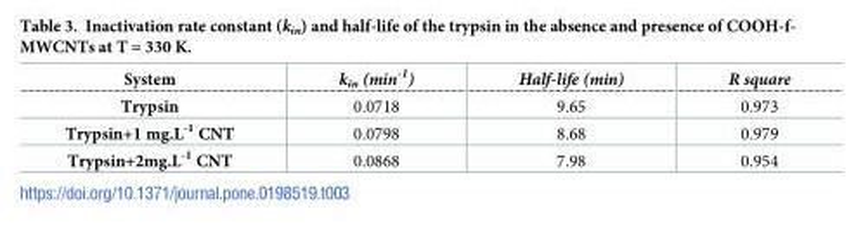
<table><thead><tr><td>System</td><td>k<sub>in</sub> (min<sup>-1</sup>)</td><td>Half-life (min)</td><td>R square</td></tr></thead><tbody><tr><td>Trypsin</td><td>0.0718</td><td>9.65</td><td>0.973</td></tr><tr><td>Trypsin+1 mg.L<sup>-1</sup> CNT</td><td>0.0798</td><td>8.68</td><td>0.979</td></tr><tr><td>Trypsin+2mg.L<sup>-1</sup> CNT</td><td>0.0868</td><td>7.98</td><td>0.954</td></tr></tbody></table>